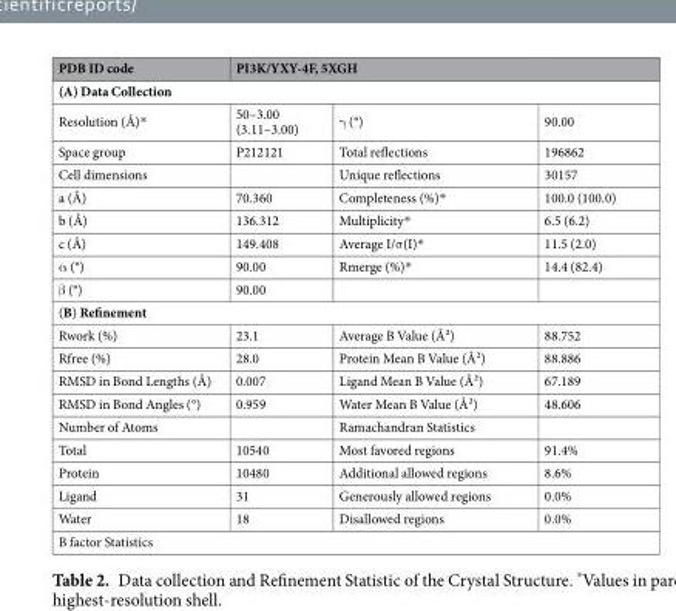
<table><thead><tr><td>PDB ID code</td><td colspan="3">PI3K/YXY-4F, 5XGH</td></tr><tr><td colspan="4">(A) Data Collection</td></tr><tr><td>Resolution (Å)*</td><td>50–3.00 (3.11–3.00)</td><td>γ (°)</td><td>90.00</td></tr></thead><tbody><tr><td>Space group</td><td>P212121</td><td>Total reflections</td><td>196862</td></tr><tr><td>Cell dimensions</td><td></td><td>Unique reflections</td><td>30157</td></tr><tr><td>a (Å)</td><td>70.360</td><td>Completeness (%)*</td><td>100.0 (100.0)</td></tr><tr><td>b (Å)</td><td>136.312</td><td>Multiplicity*</td><td>6.5 (6.2)</td></tr><tr><td>c (Å)</td><td>149.408</td><td>Average I/σ(I)*</td><td>11.5 (2.0)</td></tr><tr><td>α (°)</td><td>90.00</td><td>Rmerge (%)*</td><td>14.4 (82.4)</td></tr><tr><td>β (°)</td><td>90.00</td><td></td><td></td></tr><tr><td colspan="4">(B) Refinement</td></tr><tr><td>Rwork (%)</td><td>23.1</td><td>Average B Value (Å²)</td><td>88.752</td></tr><tr><td>Rfree (%)</td><td>28.0</td><td>Protein Mean B Value (Å²)</td><td>88.886</td></tr><tr><td>RMSD in Bond Lengths (Å)</td><td>0.007</td><td>Ligand Mean B Value (Å²)</td><td>67.189</td></tr><tr><td>RMSD in Bond Angles (°)</td><td>0.959</td><td>Water Mean B Value (Å²)</td><td>48.606</td></tr><tr><td>Number of Atoms</td><td></td><td>Ramachandran Statistics</td><td></td></tr><tr><td>Total</td><td>10540</td><td>Most favored regions</td><td>91.4%</td></tr><tr><td>Protein</td><td>10480</td><td>Additional allowed regions</td><td>8.6%</td></tr><tr><td>Ligand</td><td>31</td><td>Generously allowed regions</td><td>0.0%</td></tr><tr><td>Water</td><td>18</td><td>Disallowed regions</td><td>0.0%</td></tr><tr><td colspan="4">B factor Statistics</td></tr></tbody></table>